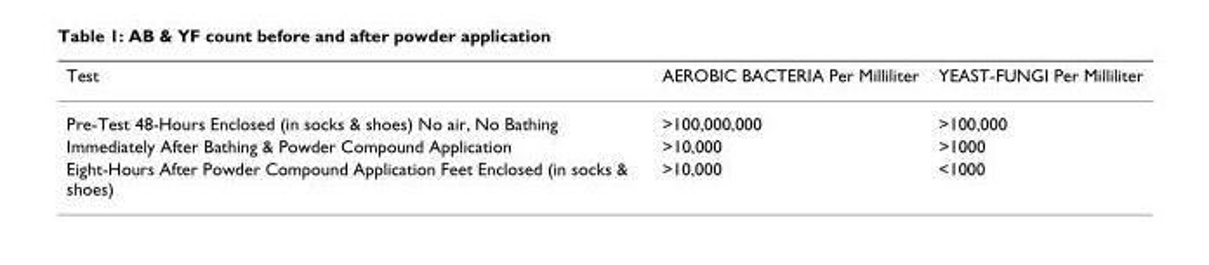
<table><thead><tr><td>Test</td><td>AEROBIC BACTERIA Per Milliliter</td><td>YEAST-FUNGI Per Milliliter</td></tr></thead><tbody><tr><td>Pre-Test 48-Hours Enclosed (in socks &amp; shoes) No air, No Bathing</td><td>&gt;100,000,000</td><td>&gt;100,000</td></tr><tr><td>Immediately After Bathing &amp; Powder Compound Application</td><td>&gt;10,000</td><td>&gt;1000</td></tr><tr><td>Eight-Hours After Powder Compound Application Feet Enclosed (in socks &amp; shoes)</td><td>&gt;10,000</td><td>&lt;1000</td></tr></tbody></table>